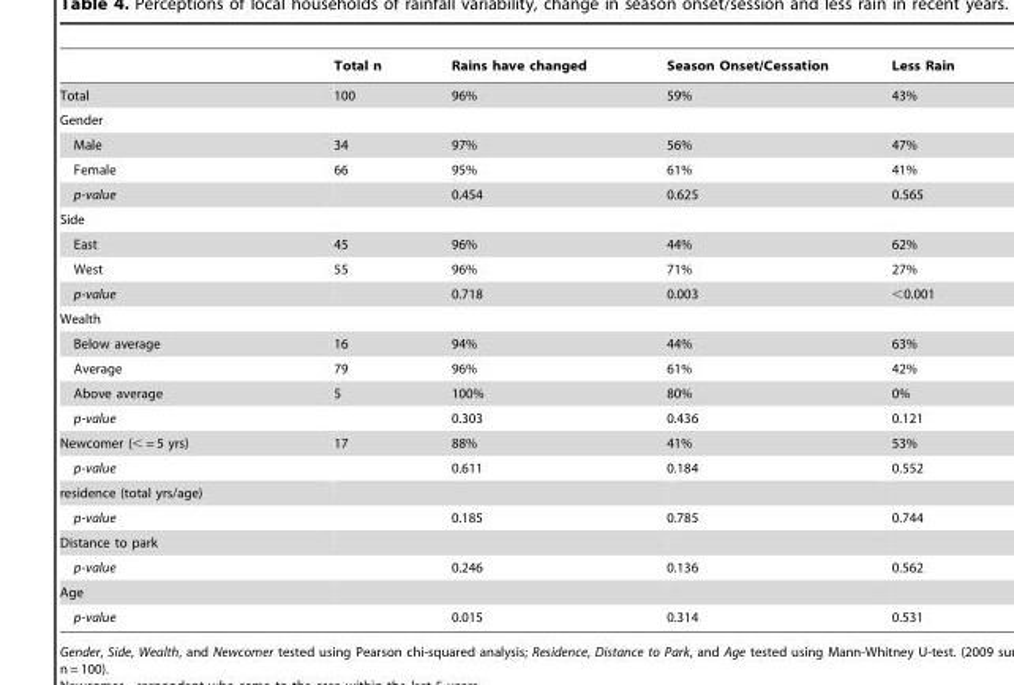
<table><thead><tr><td></td><td>Total n</td><td>Rains have changed</td><td>Season Onset/Cessation</td><td>Less Rain</td></tr></thead><tbody><tr><td>Total</td><td>100</td><td>96%</td><td>59%</td><td>43%</td></tr><tr><td colspan="5">Gender</td></tr><tr><td>Male</td><td>34</td><td>97%</td><td>56%</td><td>47%</td></tr><tr><td>Female</td><td>66</td><td>95%</td><td>61%</td><td>41%</td></tr><tr><td>p-value</td><td></td><td>0.454</td><td>0.625</td><td>0.565</td></tr><tr><td colspan="5">Side</td></tr><tr><td>East</td><td>45</td><td>96%</td><td>44%</td><td>62%</td></tr><tr><td>West</td><td>55</td><td>96%</td><td>71%</td><td>27%</td></tr><tr><td>p-value</td><td></td><td>0.718</td><td>0.003</td><td>&lt;0.001</td></tr><tr><td colspan="5">Wealth</td></tr><tr><td>Below average</td><td>16</td><td>94%</td><td>44%</td><td>63%</td></tr><tr><td>Average</td><td>79</td><td>96%</td><td>61%</td><td>42%</td></tr><tr><td>Above average</td><td>5</td><td>100%</td><td>80%</td><td>0%</td></tr><tr><td>p-value</td><td></td><td>0.303</td><td>0.436</td><td>0.121</td></tr><tr><td>Newcomer (&lt; = 5 yrs)</td><td>17</td><td>88%</td><td>41%</td><td>53%</td></tr><tr><td>p-value</td><td></td><td>0.611</td><td>0.184</td><td>0.552</td></tr><tr><td colspan="5">residence (total yrs/age)</td></tr><tr><td>p-value</td><td></td><td>0.185</td><td>0.785</td><td>0.744</td></tr><tr><td colspan="5">Distance to park</td></tr><tr><td>p-value</td><td></td><td>0.246</td><td>0.136</td><td>0.562</td></tr><tr><td colspan="5">Age</td></tr><tr><td>p-value</td><td></td><td>0.015</td><td>0.314</td><td>0.531</td></tr></tbody></table>